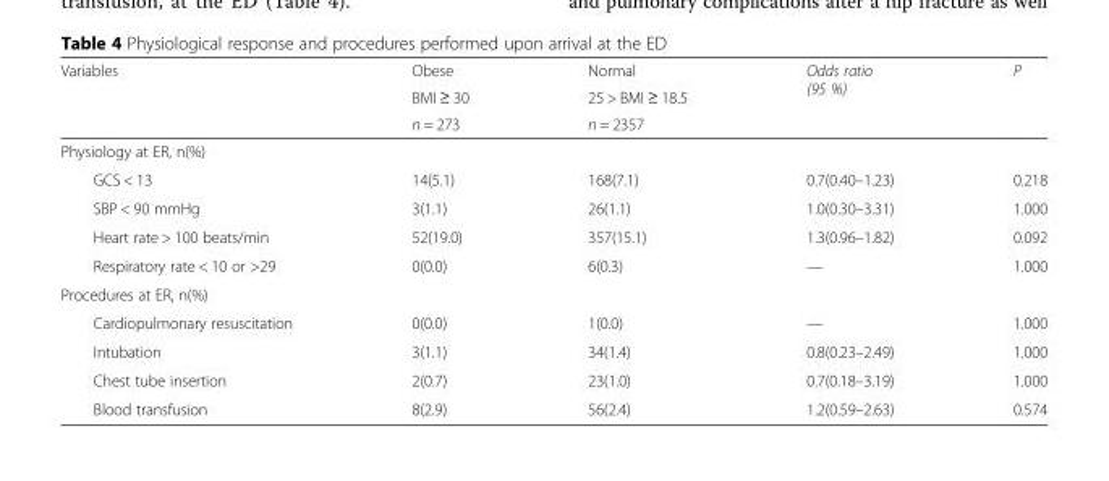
<table><thead><tr><td rowspan="3">Variables</td><td rowspan="3">Obese BMI ≥ 30 n = 273</td><td rowspan="3">Normal 25 &gt; BMI ≥ 18.5 n = 2357</td><td rowspan="3">Odds ratio (95 %)</td><td rowspan="3">P</td></tr><tr></tr><tr></tr></thead><tbody><tr><td colspan="5">Physiology at ER, n(%)</td></tr><tr><td>GCS &lt; 13</td><td>14(5.1)</td><td>168(7.1)</td><td>0.7(0.40–1.23)</td><td>0.218</td></tr><tr><td>SBP &lt; 90 mmHg</td><td>3(1.1)</td><td>26(1.1)</td><td>1.0(0.30–3.31)</td><td>1.000</td></tr><tr><td>Heart rate &gt; 100 beats/min</td><td>52(19.0)</td><td>357(15.1)</td><td>1.3(0.96–1.82)</td><td>0.092</td></tr><tr><td>Respiratory rate &lt; 10 or &gt;29</td><td>0(0.0)</td><td>6(0.3)</td><td>—</td><td>1.000</td></tr><tr><td colspan="5">Procedures at ER, n(%)</td></tr><tr><td>Cardiopulmonary resuscitation</td><td>0(0.0)</td><td>1(0.0)</td><td>—</td><td>1.000</td></tr><tr><td>Intubation</td><td>3(1.1)</td><td>34(1.4)</td><td>0.8(0.23–2.49)</td><td>1.000</td></tr><tr><td>Chest tube insertion</td><td>2(0.7)</td><td>23(1.0)</td><td>0.7(0.18–3.19)</td><td>1.000</td></tr><tr><td>Blood transfusion</td><td>8(2.9)</td><td>56(2.4)</td><td>1.2(0.59–2.63)</td><td>0.574</td></tr></tbody></table>